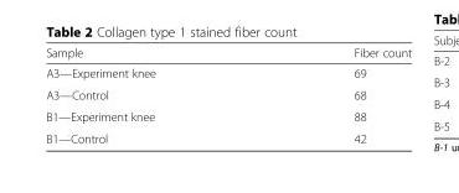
<table><thead><tr><td>Sample</td><td>Fiber count</td></tr></thead><tbody><tr><td>A3—Experiment knee</td><td>69</td></tr><tr><td>A3—Control</td><td>68</td></tr><tr><td>B1—Experiment knee</td><td>88</td></tr><tr><td>B1—Control</td><td>42</td></tr></tbody></table>